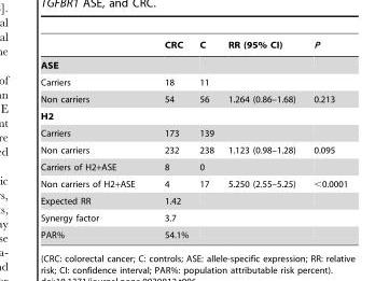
<table><thead><tr><td></td><td>CRC</td><td>C</td><td>RR (95% CI)</td><td>P</td></tr></thead><tbody><tr><td colspan="5">ASE</td></tr><tr><td>Carriers</td><td>18</td><td>11</td><td></td><td></td></tr><tr><td>Non carriers</td><td>54</td><td>56</td><td>1.264 (0.86–1.68)</td><td>0.213</td></tr><tr><td colspan="5">H2</td></tr><tr><td>Carriers</td><td>173</td><td>139</td><td></td><td></td></tr><tr><td>Non carriers</td><td>232</td><td>238</td><td>1.123 (0.98–1.28)</td><td>0.095</td></tr><tr><td>Carriers of H2+ASE</td><td>8</td><td>0</td><td></td><td></td></tr><tr><td>Non carriers of H2+ASE</td><td>4</td><td>17</td><td>5.250 (2.55–5.25)</td><td>&lt;0.0001</td></tr><tr><td>Expected RR</td><td>1.42</td><td></td><td></td><td></td></tr><tr><td>Synergy factor</td><td>3.7</td><td></td><td></td><td></td></tr><tr><td>PAR%</td><td>54.1%</td><td></td><td></td><td></td></tr></tbody></table>